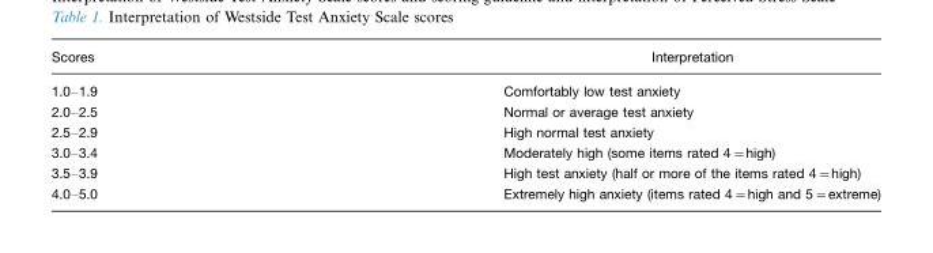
<table><thead><tr><td>Scores</td><td>Interpretation</td></tr></thead><tbody><tr><td>1.0–1.9</td><td>Comfortably low test anxiety</td></tr><tr><td>2.0–2.5</td><td>Normal or average test anxiety</td></tr><tr><td>2.5–2.9</td><td>High normal test anxiety</td></tr><tr><td>3.0–3.4</td><td>Moderately high (some items rated 4=high)</td></tr><tr><td>3.5–3.9</td><td>High test anxiety (half or more of the items rated 4=high)</td></tr><tr><td>4.0–5.0</td><td>Extremely high anxiety (items rated 4=high and 5=extreme)</td></tr></tbody></table>